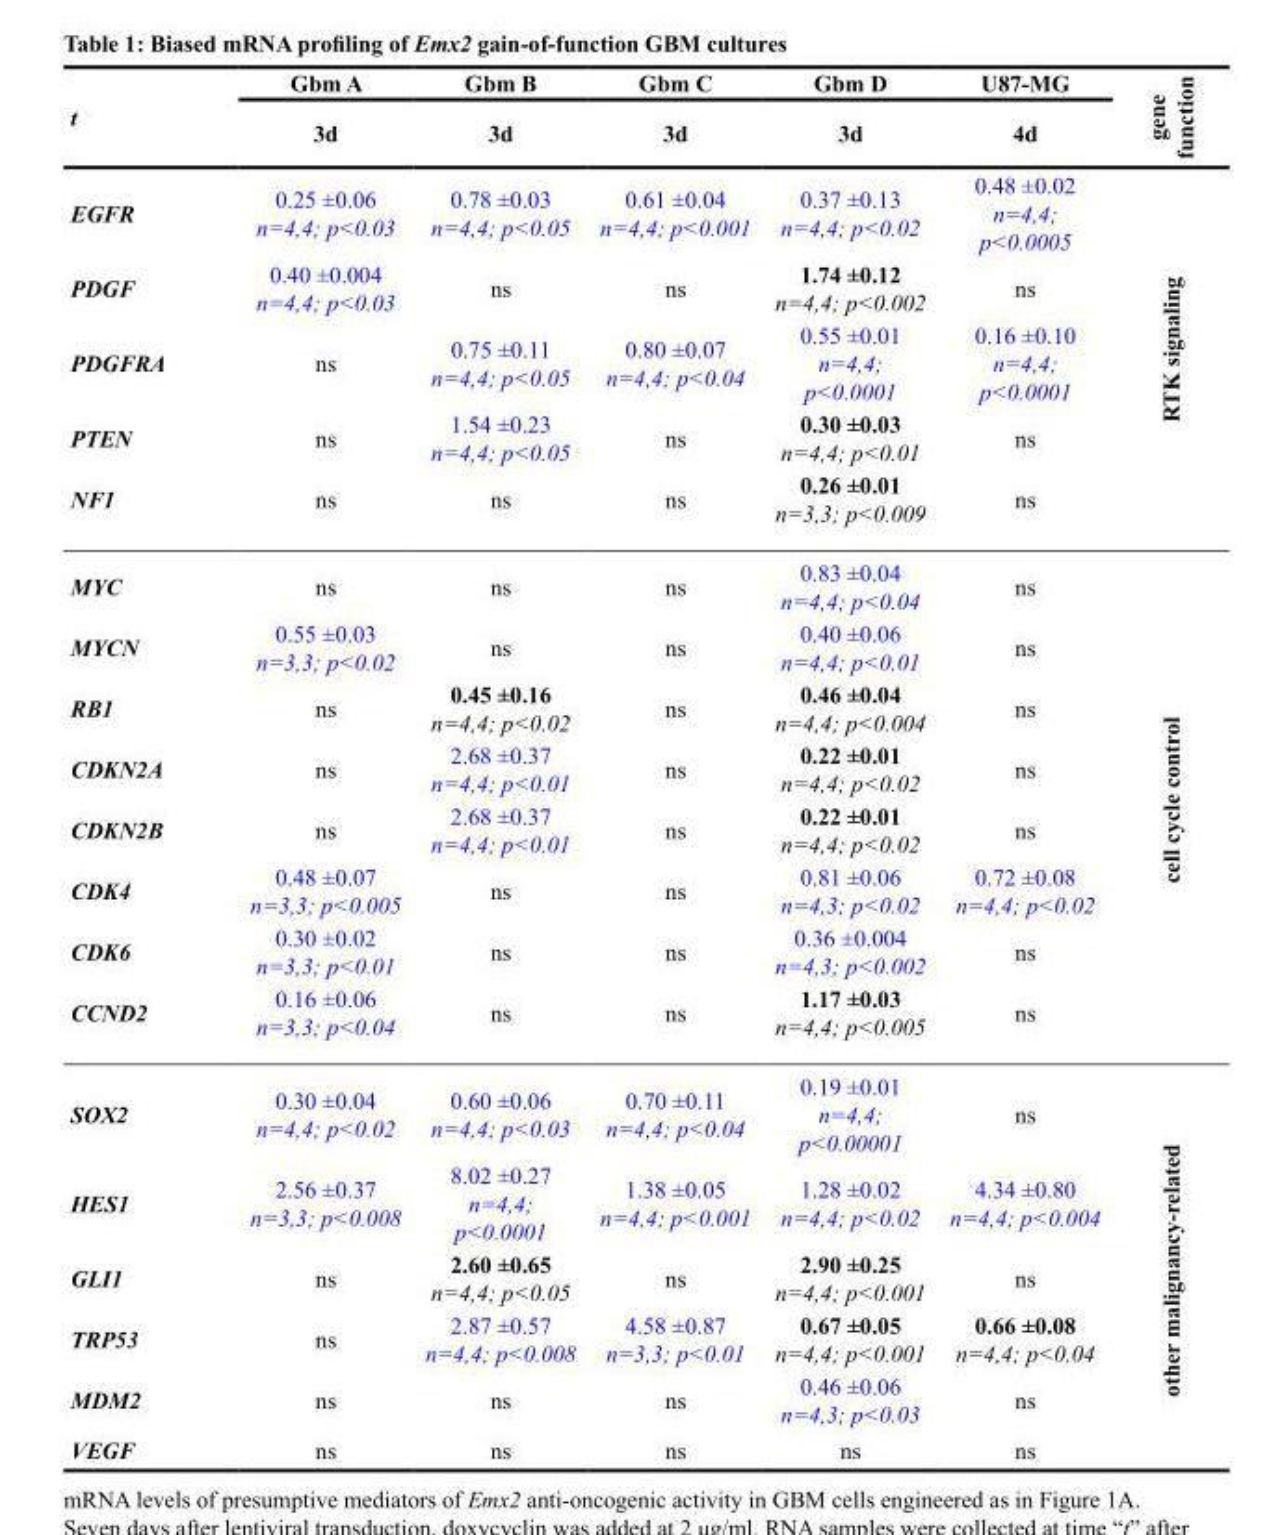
<table><thead><tr><td rowspan="2">t</td><td rowspan="2">Gbm A 3d</td><td rowspan="2">Gbm B 3d</td><td rowspan="2">Gbm C 3d</td><td rowspan="2">Gbm D 3d</td><td rowspan="2">U87-MG 4d</td><td rowspan="2">gene function</td></tr><tr></tr></thead><tbody><tr><td>EGFR</td><td>0.25 ±0.06 n=4,4; p&lt;0.03</td><td>0.78 ±0.03 n=4,4; p&lt;0.05</td><td>0.61 ±0.04 n=4,4; p&lt;0.001</td><td>0.37 ±0.13 n=4,4; p&lt;0.02</td><td>0.48 ±0.02 n=4,4; p&lt;0.0005</td><td rowspan="5">RTK signaling</td></tr><tr><td>PDGF</td><td>0.40 ±0.004 n=4,4; p&lt;0.03</td><td>ns</td><td>ns</td><td>1.74 ±0.12 n=4,4; p&lt;0.002</td><td>ns</td></tr><tr><td>PDGFRA</td><td>ns</td><td>0.75 ±0.11 n=4,4; p&lt;0.05</td><td>0.80 ±0.07 n=4,4; p&lt;0.04</td><td>0.55 ±0.01 n=4,4; p&lt;0.0001</td><td>0.16 ±0.10 n=4,4; p&lt;0.0001</td></tr><tr><td>PTEN</td><td>ns</td><td>1.54 ±0.23 n=4,4; p&lt;0.05</td><td>ns</td><td>0.30 ±0.03 n=4,4; p&lt;0.01</td><td>ns</td></tr><tr><td>NF1</td><td>ns</td><td>ns</td><td>ns</td><td>0.26 ±0.01 n=3,3; p&lt;0.009</td><td>ns</td></tr><tr><td>MYC</td><td>ns</td><td>ns</td><td>ns</td><td>0.83 ±0.04 n=4,4; p&lt;0.04</td><td>ns</td><td rowspan="8">cell cycle control</td></tr><tr><td>MYCN</td><td>0.55 ±0.03 n=3,3; p&lt;0.02</td><td>ns</td><td>ns</td><td>0.40 ±0.06 n=4,4; p&lt;0.01</td><td>ns</td></tr><tr><td>RB1</td><td>ns</td><td>0.45 ±0.16 n=4,4; p&lt;0.02</td><td>ns</td><td>0.46 ±0.04 n=4,4; p&lt;0.004</td><td>ns</td></tr><tr><td>CDKN2A</td><td>ns</td><td>2.68 ±0.37 n=4,4; p&lt;0.01</td><td>ns</td><td>0.22 ±0.01 n=4,4; p&lt;0.02</td><td>ns</td></tr><tr><td>CDKN2B</td><td>ns</td><td>2.68 ±0.37 n=4,4; p&lt;0.01</td><td>ns</td><td>0.22 ±0.01 n=4,4; p&lt;0.02</td><td>ns</td></tr><tr><td>CDK4</td><td>0.48 ±0.07 n=3,3; p&lt;0.005</td><td>ns</td><td>ns</td><td>0.81 ±0.06 n=4,3; p&lt;0.02</td><td>0.72 ±0.08 n=4,4; p&lt;0.02</td></tr><tr><td>CDK6</td><td>0.30 ±0.02 n=3,3; p&lt;0.01</td><td>ns</td><td>ns</td><td>0.36 ±0.004 n=4,3; p&lt;0.002</td><td>ns</td></tr><tr><td>CCND2</td><td>0.16 ±0.06 n=3,3; p&lt;0.04</td><td>ns</td><td>ns</td><td>1.17 ±0.03 n=4,4; p&lt;0.005</td><td>ns</td></tr><tr><td>SOX2</td><td>0.30 ±0.04 n=4,4; p&lt;0.02</td><td>0.60 ±0.06 n=4,4; p&lt;0.03</td><td>0.70 ±0.11 n=4,4; p&lt;0.04</td><td>0.19 ±0.01 n=4,4; p&lt;0.00001</td><td>ns</td><td rowspan="6">other malignancy-related</td></tr><tr><td>HES1</td><td>2.56 ±0.37 n=3,3; p&lt;0.008</td><td>8.02 ±0.27 n=4,4; p&lt;0.0001</td><td>1.38 ±0.05 n=4,4; p&lt;0.001</td><td>1.28 ±0.02 n=4,4; p&lt;0.02</td><td>4.34 ±0.80 n=4,4; p&lt;0.004</td></tr><tr><td>GLI1</td><td>ns</td><td>2.60 ±0.65 n=4,4; p&lt;0.05</td><td>ns</td><td>2.90 ±0.25 n=4,4; p&lt;0.001</td><td>ns</td></tr><tr><td>TRP53</td><td>ns</td><td>2.87 ±0.57 n=4,4; p&lt;0.008</td><td>4.58 ±0.87 n=3,3; p&lt;0.01</td><td>0.67 ±0.05 n=4,4; p&lt;0.001</td><td>0.66 ±0.08 n=4,4; p&lt;0.04</td></tr><tr><td>MDM2</td><td>ns</td><td>ns</td><td>ns</td><td>0.46 ±0.06 n=4,3; p&lt;0.03</td><td>ns</td></tr><tr><td>VEGF</td><td>ns</td><td>ns</td><td>ns</td><td>ns</td><td>ns</td></tr></tbody></table>